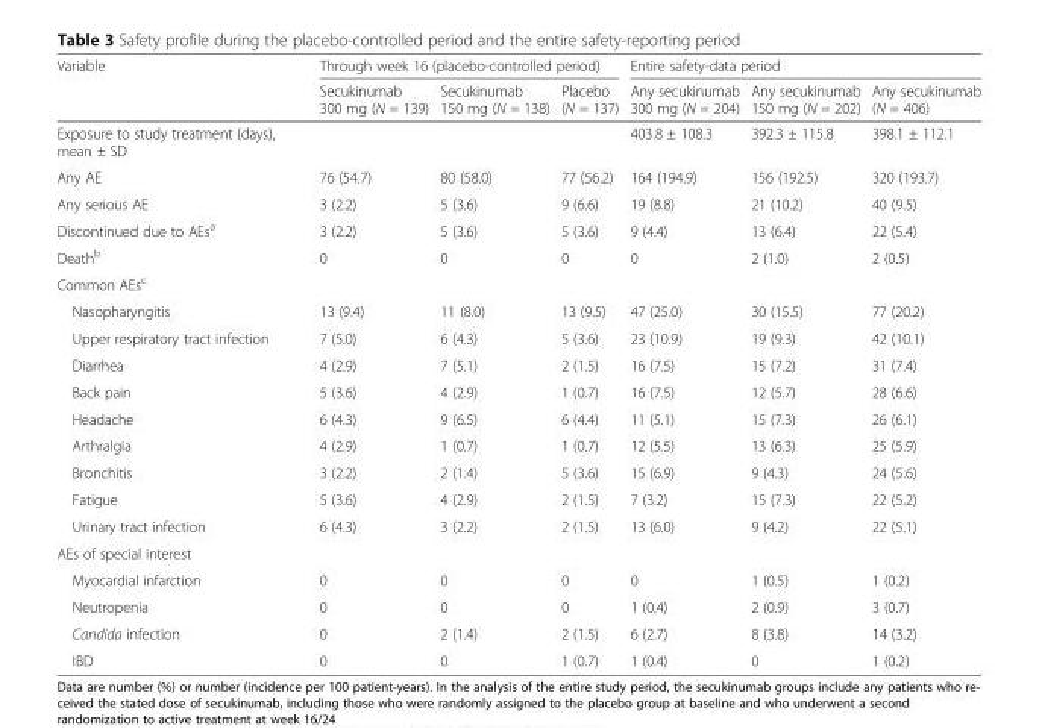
<table><thead><tr><td rowspan="2">Variable</td><td colspan="3">Through week 16 (placebo-controlled period)</td><td colspan="3">Entire safety-data period</td></tr><tr><td>Secukinumab 300 mg (N = 139)</td><td>Secukinumab 150 mg (N = 138)</td><td>Placebo (N = 137)</td><td>Any secukinumab 300 mg (N = 204)</td><td>Any secukinumab 150 mg (N = 202)</td><td>Any secukinumab (N = 406)</td></tr></thead><tbody><tr><td>Exposure to study treatment (days), mean ± SD</td><td></td><td></td><td></td><td>403.8 ± 108.3</td><td>392.3 ± 115.8</td><td>398.1 ± 112.1</td></tr><tr><td>Any AE</td><td>76 (54.7)</td><td>80 (58.0)</td><td>77 (56.2)</td><td>164 (194.9)</td><td>156 (192.5)</td><td>320 (193.7)</td></tr><tr><td>Any serious AE</td><td>3 (2.2)</td><td>5 (3.6)</td><td>9 (6.6)</td><td>19 (8.8)</td><td>21 (10.2)</td><td>40 (9.5)</td></tr><tr><td>Discontinued due to AEs<sup>a</sup></td><td>3 (2.2)</td><td>5 (3.6)</td><td>5 (3.6)</td><td>9 (4.4)</td><td>13 (6.4)</td><td>22 (5.4)</td></tr><tr><td>Death<sup>b</sup></td><td>0</td><td>0</td><td>0</td><td>0</td><td>2 (1.0)</td><td>2 (0.5)</td></tr><tr><td colspan="7">Common AEs<sup>c</sup></td></tr><tr><td>Nasopharyngitis</td><td>13 (9.4)</td><td>11 (8.0)</td><td>13 (9.5)</td><td>47 (25.0)</td><td>30 (15.5)</td><td>77 (20.2)</td></tr><tr><td>Upper respiratory tract infection</td><td>7 (5.0)</td><td>6 (4.3)</td><td>5 (3.6)</td><td>23 (10.9)</td><td>19 (9.3)</td><td>42 (10.1)</td></tr><tr><td>Diarrhea</td><td>4 (2.9)</td><td>7 (5.1)</td><td>2 (1.5)</td><td>16 (7.5)</td><td>15 (7.2)</td><td>31 (7.4)</td></tr><tr><td>Back pain</td><td>5 (3.6)</td><td>4 (2.9)</td><td>1 (0.7)</td><td>16 (7.5)</td><td>12 (5.7)</td><td>28 (6.6)</td></tr><tr><td>Headache</td><td>6 (4.3)</td><td>9 (6.5)</td><td>6 (4.4)</td><td>11 (5.1)</td><td>15 (7.3)</td><td>26 (6.1)</td></tr><tr><td>Arthralgia</td><td>4 (2.9)</td><td>1 (0.7)</td><td>1 (0.7)</td><td>12 (5.5)</td><td>13 (6.3)</td><td>25 (5.9)</td></tr><tr><td>Bronchitis</td><td>3 (2.2)</td><td>2 (1.4)</td><td>5 (3.6)</td><td>15 (6.9)</td><td>9 (4.3)</td><td>24 (5.6)</td></tr><tr><td>Fatigue</td><td>5 (3.6)</td><td>4 (2.9)</td><td>2 (1.5)</td><td>7 (3.2)</td><td>15 (7.3)</td><td>22 (5.2)</td></tr><tr><td>Urinary tract infection</td><td>6 (4.3)</td><td>3 (2.2)</td><td>2 (1.5)</td><td>13 (6.0)</td><td>9 (4.2)</td><td>22 (5.1)</td></tr><tr><td colspan="7">AEs of special interest</td></tr><tr><td>Myocardial infarction</td><td>0</td><td>0</td><td>0</td><td>0</td><td>1 (0.5)</td><td>1 (0.2)</td></tr><tr><td>Neutropenia</td><td>0</td><td>0</td><td>0</td><td>1 (0.4)</td><td>2 (0.9)</td><td>3 (0.7)</td></tr><tr><td>Candida infection</td><td>0</td><td>2 (1.4)</td><td>2 (1.5)</td><td>6 (2.7)</td><td>8 (3.8)</td><td>14 (3.2)</td></tr><tr><td>IBD</td><td>0</td><td>0</td><td>1 (0.7)</td><td>1 (0.4)</td><td>0</td><td>1 (0.2)</td></tr></tbody></table>